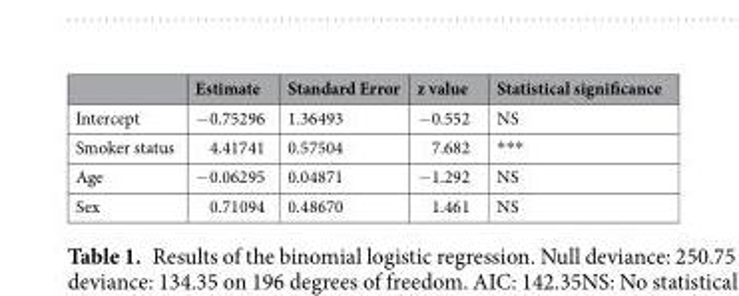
<table><thead><tr><td></td><td>Estimate</td><td>Standard Error</td><td>z value</td><td>Statistical significance</td></tr></thead><tbody><tr><td>Intercept</td><td>−0.75296</td><td>1.36493</td><td>−0.552</td><td>NS</td></tr><tr><td>Smoker status</td><td>4.41741</td><td>0.57504</td><td>7.682</td><td>***</td></tr><tr><td>Age</td><td>−0.06295</td><td>0.04871</td><td>−1.292</td><td>NS</td></tr><tr><td>Sex</td><td>0.71094</td><td>0.48670</td><td>1.461</td><td>NS</td></tr></tbody></table>